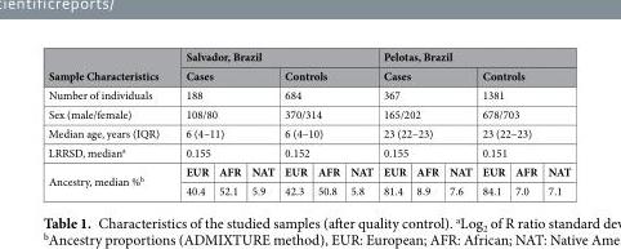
<table><thead><tr><td rowspan="2">Sample Characteristics</td><td colspan="6">Salvador, Brazil</td><td colspan="6">Pelotas, Brazil</td></tr><tr><td colspan="3">Cases</td><td colspan="3">Controls</td><td colspan="3">Cases</td><td colspan="3">Controls</td></tr></thead><tbody><tr><td>Number of individuals</td><td colspan="3">188</td><td colspan="3">684</td><td colspan="3">367</td><td colspan="3">1381</td></tr><tr><td>Sex (male/female)</td><td colspan="3">108/80</td><td colspan="3">370/314</td><td colspan="3">165/202</td><td colspan="3">678/703</td></tr><tr><td>Median age, years (IQR)</td><td colspan="3">6 (4–11)</td><td colspan="3">6 (4–10)</td><td colspan="3">23 (22–23)</td><td colspan="3">23 (22–23)</td></tr><tr><td>LRRSD, median<sup>a</sup></td><td colspan="3">0.155</td><td colspan="3">0.152</td><td colspan="3">0.155</td><td colspan="3">0.151</td></tr><tr><td rowspan="2">Ancestry, median %<sup>b</sup></td><td>EUR</td><td>AFR</td><td>NAT</td><td>EUR</td><td>AFR</td><td>NAT</td><td>EUR</td><td>AFR</td><td>NAT</td><td>EUR</td><td>AFR</td><td>NAT</td></tr><tr><td>40.4</td><td>52.1</td><td>5.9</td><td>42.3</td><td>50.8</td><td>5.8</td><td>81.4</td><td>8.9</td><td>7.6</td><td>84.1</td><td>7.0</td><td>7.1</td></tr></tbody></table>